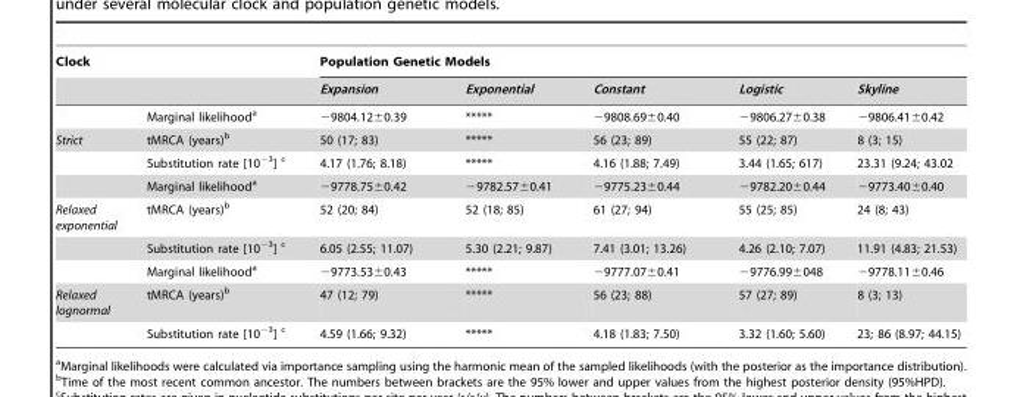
<table><thead><tr><td rowspan="2">Clock</td><td rowspan="2"></td><td colspan="5">Population Genetic Models</td></tr><tr><td>Expansion</td><td>Exponential</td><td>Constant</td><td>Logistic</td><td>Skyline</td></tr></thead><tbody><tr><td></td><td>Marginal likelihood<sup>a</sup></td><td>−9804.12±0.39</td><td>*****</td><td>−9808.69±0.40</td><td>−9806.27±0.38</td><td>−9806.41±0.42</td></tr><tr><td rowspan="3">Strict</td><td>tMRCA (years)<sup>b</sup></td><td>50 (17; 83)</td><td>*****</td><td>56 (23; 89)</td><td>55 (22; 87)</td><td>8 (3; 15)</td></tr><tr><td>Substitution rate [10<sup>−3</sup>] c</td><td>4.17 (1.76; 8.18)</td><td>*****</td><td>4.16 (1.88; 7.49)</td><td>3.44 (1.65; 617)</td><td>23.31 (9.24; 43.02</td></tr><tr><td>Marginal likelihood<sup>a</sup></td><td>−9778.75±0.42</td><td>−9782.57±0.41</td><td>−9775.23±0.44</td><td>−9782.20±0.44</td><td>−9773.40±0.40</td></tr><tr><td rowspan="3">Relaxed exponential</td><td>tMRCA (years)<sup>b</sup></td><td>52 (20; 84)</td><td>52 (18; 85)</td><td>61 (27; 94)</td><td>55 (25; 85)</td><td>24 (8; 43)</td></tr><tr><td>Substitution rate [10<sup>−3</sup>] c</td><td>6.05 (2.55; 11.07)</td><td>5.30 (2.21; 9.87)</td><td>7.41 (3.01; 13.26)</td><td>4.26 (2.10; 7.07)</td><td>11.91 (4.83; 21.53)</td></tr><tr><td>Marginal likelihood<sup>a</sup></td><td>−9773.53±0.43</td><td>*****</td><td>−9777.07±0.41</td><td>−9776.99±048</td><td>−9778.11±0.46</td></tr><tr><td rowspan="2">Relaxed lognormal</td><td>tMRCA (years)<sup>b</sup></td><td>47 (12; 79)</td><td>*****</td><td>56 (23; 88)</td><td>57 (27; 89)</td><td>8 (3; 13)</td></tr><tr><td>Substitution rate [10<sup>−3</sup>] c</td><td>4.59 (1.66; 9.32)</td><td>*****</td><td>4.18 (1.83; 7.50)</td><td>3.32 (1.60; 5.60)</td><td>23; 86 (8.97; 44.15)</td></tr></tbody></table>